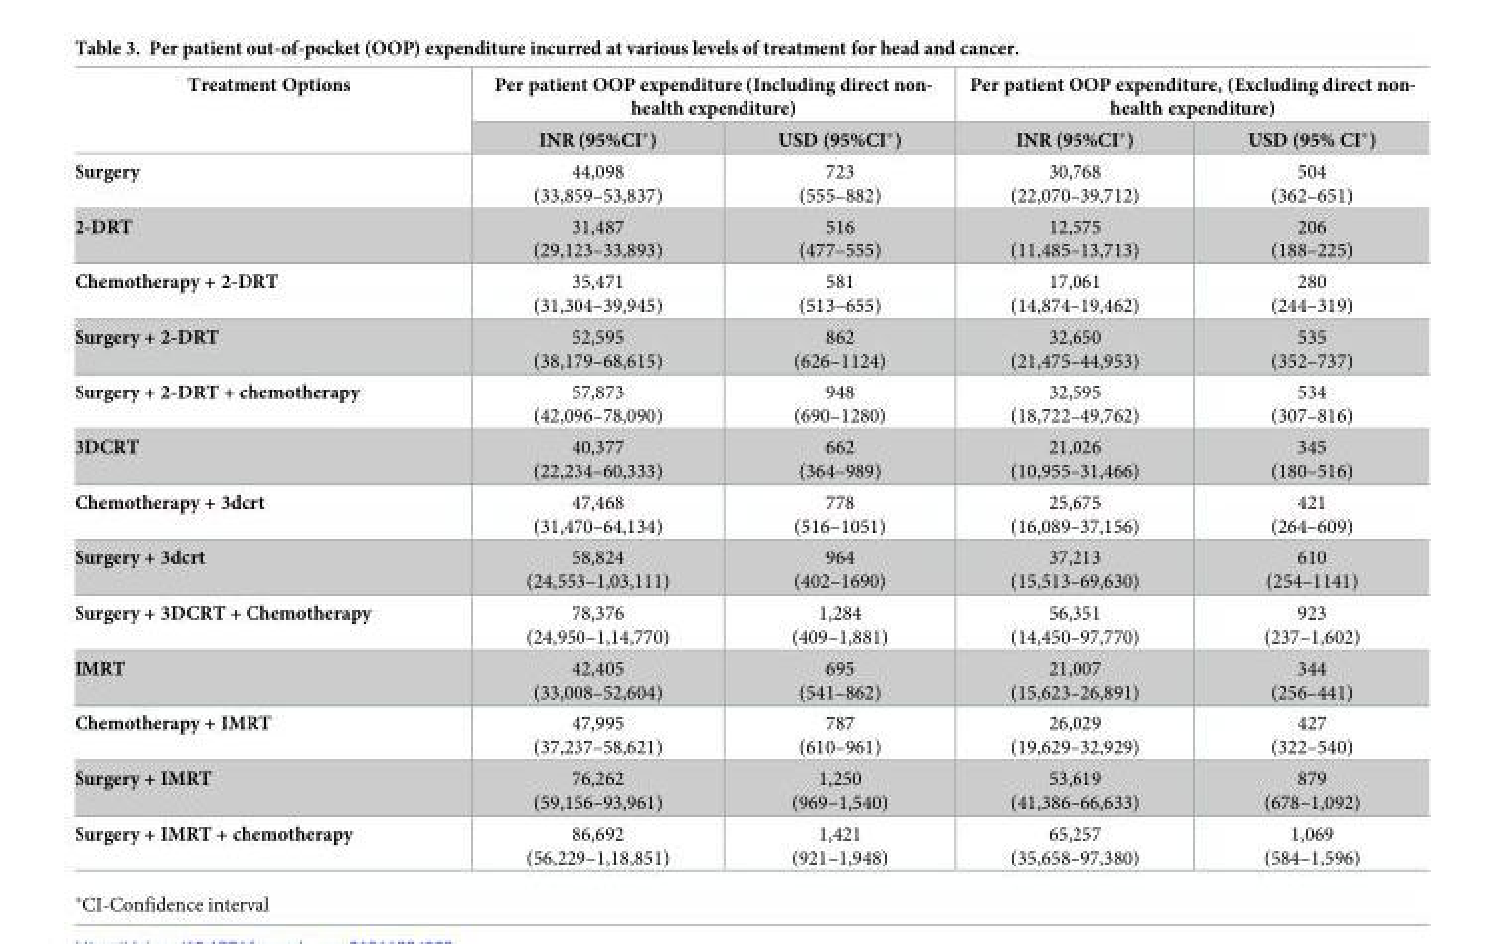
<table><thead><tr><td rowspan="2">Treatment Options</td><td colspan="2">Per patient OOP expenditure (Including direct non- health expenditure)</td><td colspan="2">Per patient OOP expenditure, (Excluding direct non- health expenditure)</td></tr><tr><td>INR (95%CI*)</td><td>USD (95%CI*)</td><td>INR (95%CI*)</td><td>USD (95% CI*)</td></tr></thead><tbody><tr><td>Surgery</td><td>44,098 (33,859–53,837)</td><td>723 (555–882)</td><td>30,768 (22,070–39,712)</td><td>504 (362–651)</td></tr><tr><td>2-DRT</td><td>31,487 (29,123–33,893)</td><td>516 (477–555)</td><td>12,575 (11,485–13,713)</td><td>206 (188–225)</td></tr><tr><td>Chemotherapy + 2-DRT</td><td>35,471 (31,304–39,945)</td><td>581 (513–655)</td><td>17,061 (14,874–19,462)</td><td>280 (244–319)</td></tr><tr><td>Surgery + 2-DRT</td><td>52,595 (38,179–68,615)</td><td>862 (626–1124)</td><td>32,650 (21,475–44,953)</td><td>535 (352–737)</td></tr><tr><td>Surgery + 2-DRT + chemotherapy</td><td>57,873 (42,096–78,090)</td><td>948 (690–1280)</td><td>32,595 (18,722–49,762)</td><td>534 (307–816)</td></tr><tr><td>3DCRT</td><td>40,377 (22,234–60,333)</td><td>662 (364–989)</td><td>21,026 (10,955–31,466)</td><td>345 (180–516)</td></tr><tr><td>Chemotherapy + 3dcrt</td><td>47,468 (31,470–64,134)</td><td>778 (516–1051)</td><td>25,675 (16,089–37,156)</td><td>421 (264–609)</td></tr><tr><td>Surgery + 3dcrt</td><td>58,824 (24,553–1,03,111)</td><td>964 (402–1690)</td><td>37,213 (15,513–69,630)</td><td>610 (254–1141)</td></tr><tr><td>Surgery + 3DCRT + Chemotherapy</td><td>78,376 (24,950–1,14,770)</td><td>1,284 (409–1,881)</td><td>56,351 (14,450–97,770)</td><td>923 (237–1,602)</td></tr><tr><td>IMRT</td><td>42,405 (33,008–52,604)</td><td>695 (541–862)</td><td>21,007 (15,623–26,891)</td><td>344 (256–441)</td></tr><tr><td>Chemotherapy + IMRT</td><td>47,995 (37,237–58,621)</td><td>787 (610–961)</td><td>26,029 (19,629–32,929)</td><td>427 (322–540)</td></tr><tr><td>Surgery + IMRT</td><td>76,262 (59,156–93,961)</td><td>1,250 (969–1,540)</td><td>53,619 (41,386–66,633)</td><td>879 (678–1,092)</td></tr><tr><td>Surgery + IMRT + chemotherapy</td><td>86,692 (56,229–1,18,851)</td><td>1,421 (921–1,948)</td><td>65,257 (35,658–97,380)</td><td>1,069 (584–1,596)</td></tr></tbody></table>